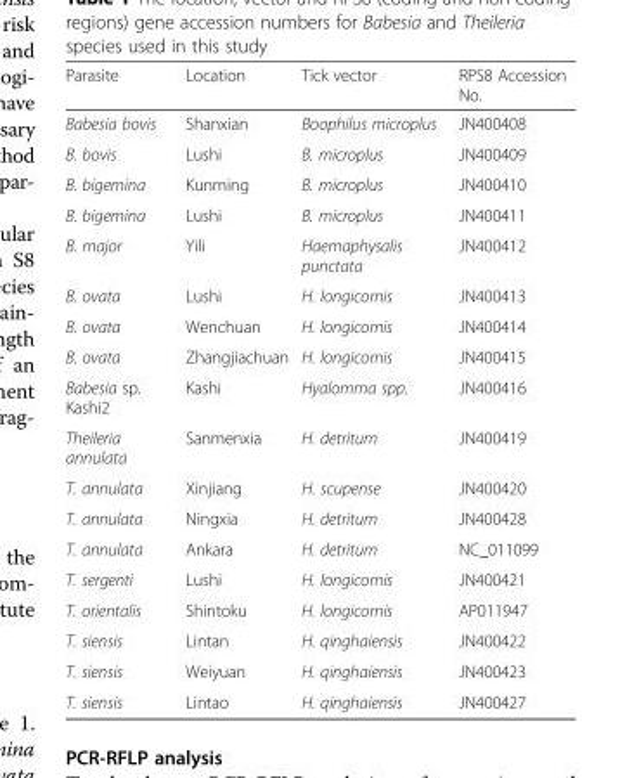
<table><thead><tr><td>Parasite</td><td>Location</td><td>Tick vector</td><td>RPS8 Accession No.</td></tr></thead><tbody><tr><td>Babesia bovis</td><td>Shanxian</td><td>Boophilus microplus</td><td>JN400408</td></tr><tr><td>B. bovis</td><td>Lushi</td><td>B. microplus</td><td>JN400409</td></tr><tr><td>B. bigemina</td><td>Kunming</td><td>B. microplus</td><td>JN400410</td></tr><tr><td>B. bigemina</td><td>Lushi</td><td>B. microplus</td><td>JN400411</td></tr><tr><td>B. major</td><td>Yili</td><td>Haemaphysalis punctata</td><td>JN400412</td></tr><tr><td>B. ovata</td><td>Lushi</td><td>H. longicornis</td><td>JN400413</td></tr><tr><td>B. ovata</td><td>Wenchuan</td><td>H. longicornis</td><td>JN400414</td></tr><tr><td>B. ovata</td><td>Zhangjiachuan</td><td>H. longicornis</td><td>JN400415</td></tr><tr><td>Babesia sp. Kashi2</td><td>Kashi</td><td>Hyalomma spp.</td><td>JN400416</td></tr><tr><td>Theileria annulata</td><td>Sanmenxia</td><td>H. detritum</td><td>JN400419</td></tr><tr><td>T. annulata</td><td>Xinjiang</td><td>H. scupense</td><td>JN400420</td></tr><tr><td>T. annulata</td><td>Ningxia</td><td>H. detritum</td><td>JN400428</td></tr><tr><td>T. annulata</td><td>Ankara</td><td>H. detritum</td><td>NC_011099</td></tr><tr><td>T. sergenti</td><td>Lushi</td><td>H. longicornis</td><td>JN400421</td></tr><tr><td>T. orientalis</td><td>Shintoku</td><td>H. longicornis</td><td>AP011947</td></tr><tr><td>T. siensis</td><td>Lintan</td><td>H. qinghaiensis</td><td>JN400422</td></tr><tr><td>T. siensis</td><td>Weiyuan</td><td>H. qinghaiensis</td><td>JN400423</td></tr><tr><td>T. siensis</td><td>Lintao</td><td>H. qinghaiensis</td><td>JN400427</td></tr></tbody></table>